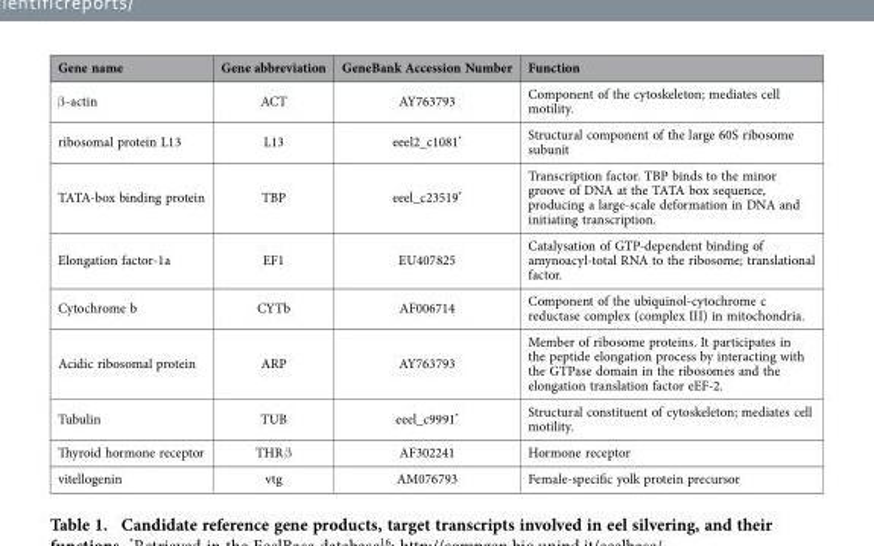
<table><thead><tr><td>Gene name</td><td>Gene abbreviation</td><td>GeneBank Accession Number</td><td>Function</td></tr></thead><tbody><tr><td>β -actin</td><td>ACT</td><td>AY763793</td><td>Component of the cytoskeleton; mediates cell motility.</td></tr><tr><td>ribosomal protein L13</td><td>L13</td><td>eeel2_c1081*</td><td>Structural component of the large 60S ribosome subunit</td></tr><tr><td>TATA-box binding protein</td><td>TBP</td><td>eeel_c23519*</td><td>Transcription factor. TBP binds to the minor groove of DNA at the TATA box sequence, producing a large-scale deformation in DNA and initiating transcription.</td></tr><tr><td>Elongation factor-1a</td><td>EF1</td><td>EU407825</td><td>Catalysation of GTP-dependent binding of amynoacyl-total RNA to the ribosome; translational factor.</td></tr><tr><td>Cytochrome b</td><td>CYTb</td><td>AF006714</td><td>Component of the ubiquinol-cytochrome c reductase complex (complex III) in mitochondria.</td></tr><tr><td>Acidic ribosomal protein</td><td>ARP</td><td>AY763793</td><td>Member of ribosome proteins. It participates in the peptide elongation process by interacting with the GTPase domain in the ribosomes and the elongation translation factor eEF-2.</td></tr><tr><td>Tubulin</td><td>TUB</td><td>eeel_c9991*</td><td>Structural constituent of cytoskeleton; mediates cell motility.</td></tr><tr><td>Thyroid hormone receptor</td><td>THR β</td><td>AF302241</td><td>Hormone receptor</td></tr><tr><td>vitellogenin</td><td>vtg</td><td>AM076793</td><td>Female-specific yolk protein precursor</td></tr></tbody></table>